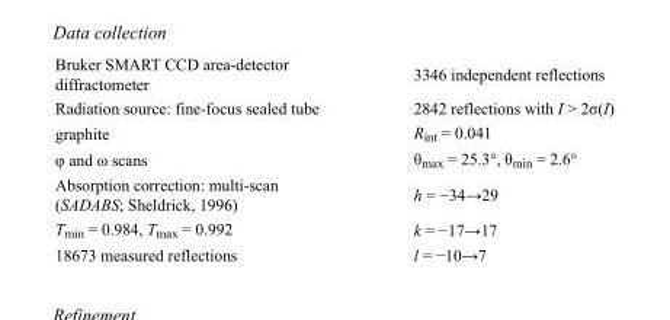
<table><tbody><tr><td>Bruker SMART CCD area-detector diffractometer</td><td>3346 independent reflections</td></tr><tr><td>Radiation source: fine-focus sealed tube</td><td>2842 reflections with I &gt; 2σ(I)</td></tr><tr><td>graphite</td><td>R<sub>int</sub> = 0.041</td></tr><tr><td>φ and ω scans</td><td>θ<sub>max</sub> = 25.3°, θ<sub>min</sub> = 2.6°</td></tr><tr><td>Absorption correction: multi-scan (SADABS; Sheldrick, 1996)</td><td>h = −34→29</td></tr><tr><td>T<sub>min</sub> = 0.984, T<sub>max</sub> = 0.992</td><td>k = −17→17</td></tr><tr><td>18673 measured reflections</td><td>l = −10→7</td></tr></tbody></table>